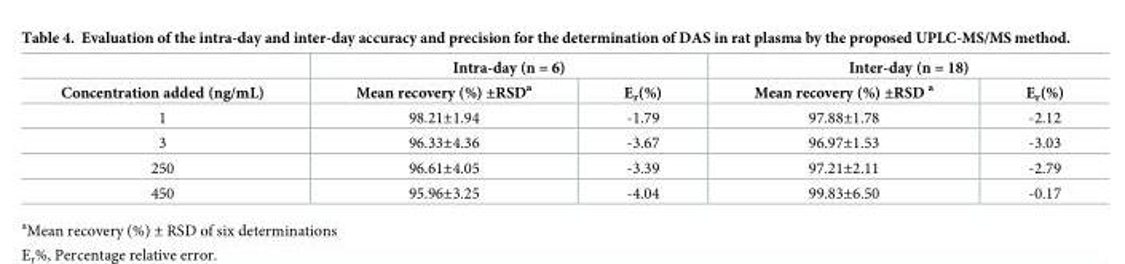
<table><thead><tr><td rowspan="2">Concentration added (ng/mL)</td><td colspan="2">Intra-day (n = 6)</td><td colspan="2">Inter-day (n = 18)</td></tr><tr><td>Mean recovery (%) ±RSD<sup>a</sup></td><td>E<sub>r</sub>(%)</td><td>Mean recovery (%) ±RSD <sup>a</sup></td><td>E<sub>r</sub>(%)</td></tr></thead><tbody><tr><td>1</td><td>98.21±1.94</td><td>-1.79</td><td>97.88±1.78</td><td>-2.12</td></tr><tr><td>3</td><td>96.33±4.36</td><td>-3.67</td><td>96.97±1.53</td><td>-3.03</td></tr><tr><td>250</td><td>96.61±4.05</td><td>-3.39</td><td>97.21±2.11</td><td>-2.79</td></tr><tr><td>450</td><td>95.96±3.25</td><td>-4.04</td><td>99.83±6.50</td><td>-0.17</td></tr></tbody></table>